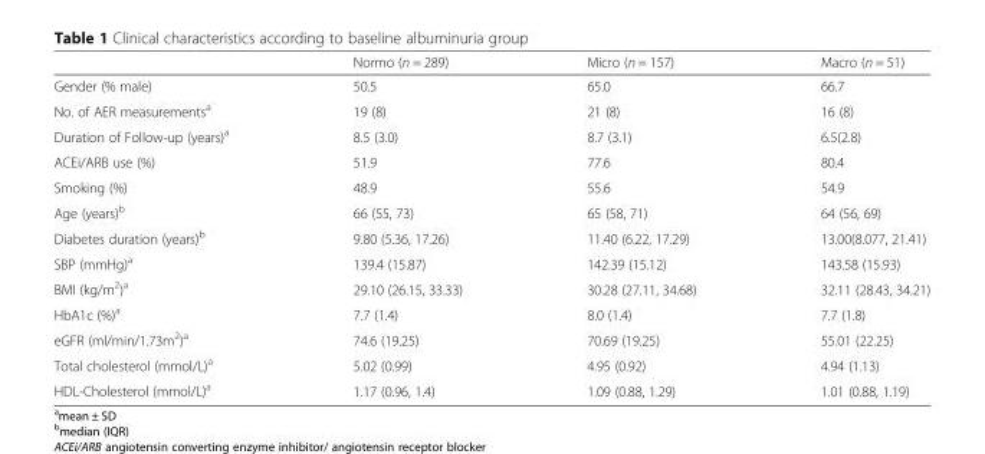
<table><thead><tr><td></td><td>Normo (n = 289)</td><td>Micro (n = 157)</td><td>Macro (n = 51)</td></tr></thead><tbody><tr><td>Gender (% male)</td><td>50.5</td><td>65.0</td><td>66.7</td></tr><tr><td>No. of AER measurements<sup>a</sup></td><td>19 (8)</td><td>21 (8)</td><td>16 (8)</td></tr><tr><td>Duration of Follow-up (years)<sup>a</sup></td><td>8.5 (3.0)</td><td>8.7 (3.1)</td><td>6.5(2.8)</td></tr><tr><td>ACEi/ARB use (%)</td><td>51.9</td><td>77.6</td><td>80.4</td></tr><tr><td>Smoking (%)</td><td>48.9</td><td>55.6</td><td>54.9</td></tr><tr><td>Age (years)<sup>b</sup></td><td>66 (55, 73)</td><td>65 (58, 71)</td><td>64 (56, 69)</td></tr><tr><td>Diabetes duration (years)<sup>b</sup></td><td>9.80 (5.36, 17.26)</td><td>11.40 (6.22, 17.29)</td><td>13.00(8.077, 21.41)</td></tr><tr><td>SBP (mmHg)<sup>a</sup></td><td>139.4 (15.87)</td><td>142.39 (15.12)</td><td>143.58 (15.93)</td></tr><tr><td>BMI (kg/m<sup>2</sup>)<sup>a</sup></td><td>29.10 (26.15, 33.33)</td><td>30.28 (27.11, 34.68)</td><td>32.11 (28.43, 34.21)</td></tr><tr><td>HbA1c (%)<sup>a</sup></td><td>7.7 (1.4)</td><td>8.0 (1.4)</td><td>7.7 (1.8)</td></tr><tr><td>eGFR (ml/min/1.73m<sup>2</sup>)<sup>a</sup></td><td>74.6 (19.25)</td><td>70.69 (19.25)</td><td>55.01 (22.25)</td></tr><tr><td>Total cholesterol (mmol/L)<sup>a</sup></td><td>5.02 (0.99)</td><td>4.95 (0.92)</td><td>4.94 (1.13)</td></tr><tr><td>HDL-Cholesterol (mmol/L)<sup>a</sup></td><td>1.17 (0.96, 1.4)</td><td>1.09 (0.88, 1.29)</td><td>1.01 (0.88, 1.19)</td></tr></tbody></table>